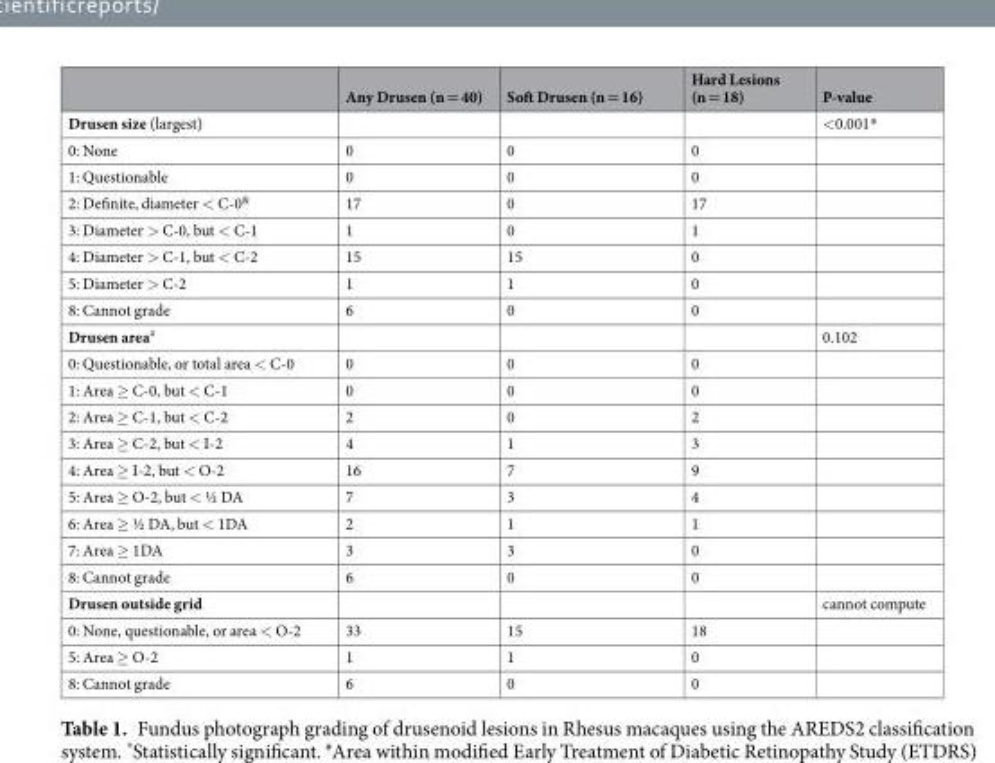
<table><thead><tr><td></td><td>Any Drusen (n = 40)</td><td>Soft Drusen (n = 16)</td><td>Hard Lesions (n = 18)</td><td>P-value</td></tr></thead><tbody><tr><td>Drusen size (largest)</td><td></td><td></td><td></td><td>&lt;0.001*</td></tr><tr><td>0: None</td><td>0</td><td>0</td><td>0</td><td></td></tr><tr><td>1: Questionable</td><td>0</td><td>0</td><td>0</td><td></td></tr><tr><td>2: Definite, diameter &lt; C-0<sup>&amp;</sup></td><td>17</td><td>0</td><td>17</td><td></td></tr><tr><td>3: Diameter &gt; C-0, but &lt; C-1</td><td>1</td><td>0</td><td>1</td><td></td></tr><tr><td>4: Diameter &gt; C-1, but &lt; C-2</td><td>15</td><td>15</td><td>0</td><td></td></tr><tr><td>5: Diameter &gt; C-2</td><td>1</td><td>1</td><td>0</td><td></td></tr><tr><td>8: Cannot grade</td><td>6</td><td>0</td><td>0</td><td></td></tr><tr><td>Drusen area<sup>#</sup></td><td></td><td></td><td></td><td>0.102</td></tr><tr><td>0: Questionable, or total area &lt; C-0</td><td>0</td><td>0</td><td>0</td><td></td></tr><tr><td>1: Area ≥ C-0, but &lt; C-1</td><td>0</td><td>0</td><td>0</td><td></td></tr><tr><td>2: Area ≥ C-1, but &lt; C-2</td><td>2</td><td>0</td><td>2</td><td></td></tr><tr><td>3: Area ≥ C-2, but &lt; I-2</td><td>4</td><td>1</td><td>3</td><td></td></tr><tr><td>4: Area ≥ I-2, but &lt; O-2</td><td>16</td><td>7</td><td>9</td><td></td></tr><tr><td>5: Area ≥ O-2, but &lt; ½ DA</td><td>7</td><td>3</td><td>4</td><td></td></tr><tr><td>6: Area ≥ ½ DA, but &lt; 1DA</td><td>2</td><td>1</td><td>1</td><td></td></tr><tr><td>7: Area ≥ 1DA</td><td>3</td><td>3</td><td>0</td><td></td></tr><tr><td>8: Cannot grade</td><td>6</td><td>0</td><td>0</td><td></td></tr><tr><td>Drusen outside grid</td><td></td><td></td><td></td><td>cannot compute</td></tr><tr><td>0: None, questionable, or area &lt; O-2</td><td>33</td><td>15</td><td>18</td><td></td></tr><tr><td>5: Area ≥ O-2</td><td>1</td><td>1</td><td>0</td><td></td></tr><tr><td>8: Cannot grade</td><td>6</td><td>0</td><td>0</td><td></td></tr></tbody></table>